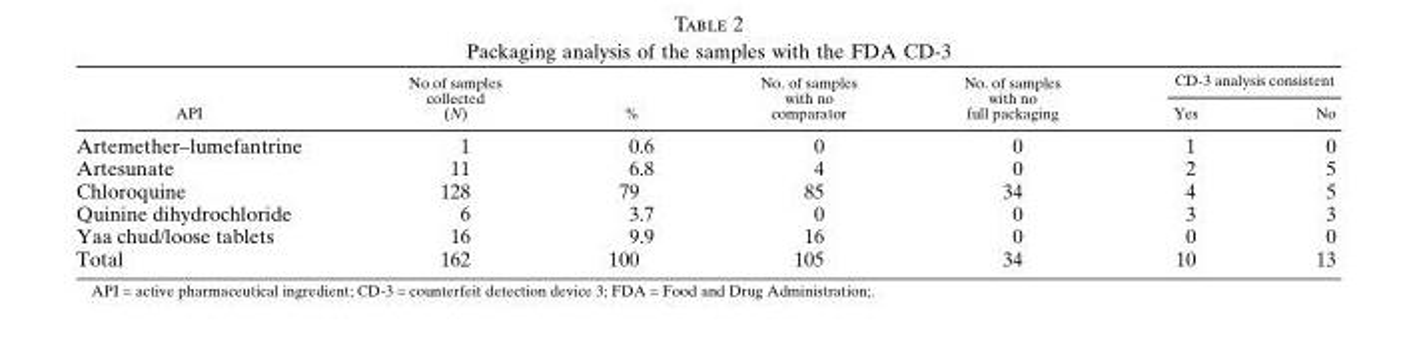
<table><thead><tr><td rowspan="2">API</td><td rowspan="2">No of samples collected (N)</td><td rowspan="2">%</td><td rowspan="2">No. of samples with no comparator</td><td rowspan="2">No. of samples with no full packaging</td><td colspan="2">CD-3 analysis consistent</td></tr><tr><td>Yes</td><td>No</td></tr></thead><tbody><tr><td>Artemether–lumefantrine</td><td>1</td><td>0.6</td><td>0</td><td>0</td><td>1</td><td>0</td></tr><tr><td>Artesunate</td><td>11</td><td>6.8</td><td>4</td><td>0</td><td>2</td><td>5</td></tr><tr><td>Chloroquine</td><td>128</td><td>79</td><td>85</td><td>34</td><td>4</td><td>5</td></tr><tr><td>Quinine dihydrochloride</td><td>6</td><td>3.7</td><td>0</td><td>0</td><td>3</td><td>3</td></tr><tr><td>Yaa chud/loose tablets</td><td>16</td><td>9.9</td><td>16</td><td>0</td><td>0</td><td>0</td></tr><tr><td>Total</td><td>162</td><td>100</td><td>105</td><td>34</td><td>10</td><td>13</td></tr></tbody></table>